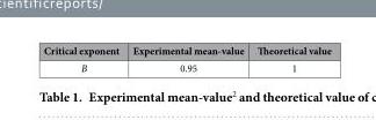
<table><thead><tr><td>Critical exponent</td><td>Experimental mean-value</td><td>Theoretical value</td></tr></thead><tbody><tr><td>B</td><td>0.95</td><td>1</td></tr></tbody></table>